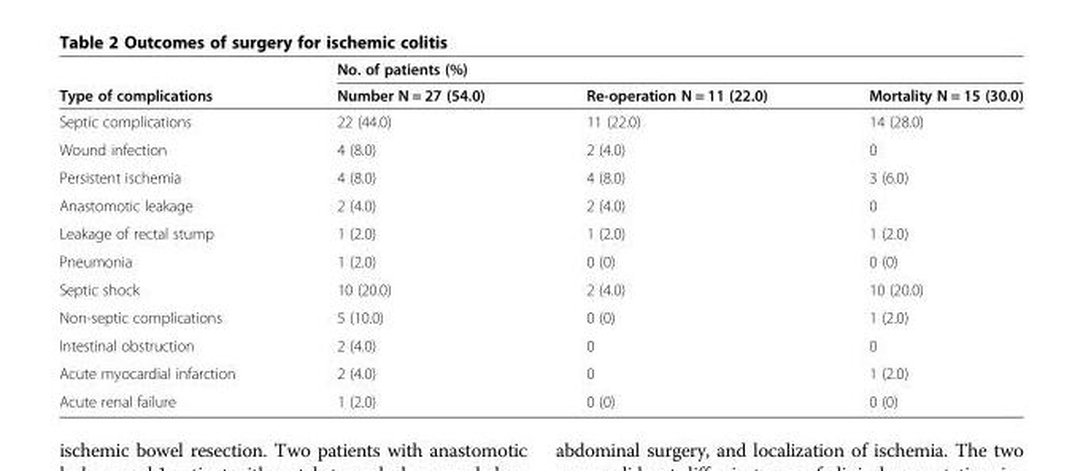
<table><thead><tr><td rowspan="2">Type of complications</td><td colspan="3">No. of patients (%)</td></tr><tr><td>Number N = 27 (54.0)</td><td>Re-operation N = 11 (22.0)</td><td>Mortality N = 15 (30.0)</td></tr></thead><tbody><tr><td>Septic complications</td><td>22 (44.0)</td><td>11 (22.0)</td><td>14 (28.0)</td></tr><tr><td>Wound infection</td><td>4 (8.0)</td><td>2 (4.0)</td><td>0</td></tr><tr><td>Persistent ischemia</td><td>4 (8.0)</td><td>4 (8.0)</td><td>3 (6.0)</td></tr><tr><td>Anastomotic leakage</td><td>2 (4.0)</td><td>2 (4.0)</td><td>0</td></tr><tr><td>Leakage of rectal stump</td><td>1 (2.0)</td><td>1 (2.0)</td><td>1 (2.0)</td></tr><tr><td>Pneumonia</td><td>1 (2.0)</td><td>0 (0)</td><td>0 (0)</td></tr><tr><td>Septic shock</td><td>10 (20.0)</td><td>2 (4.0)</td><td>10 (20.0)</td></tr><tr><td>Non-septic complications</td><td>5 (10.0)</td><td>0 (0)</td><td>1 (2.0)</td></tr><tr><td>Intestinal obstruction</td><td>2 (4.0)</td><td>0</td><td>0</td></tr><tr><td>Acute myocardial infarction</td><td>2 (4.0)</td><td>0</td><td>1 (2.0)</td></tr><tr><td>Acute renal failure</td><td>1 (2.0)</td><td>0 (0)</td><td>0 (0)</td></tr></tbody></table>